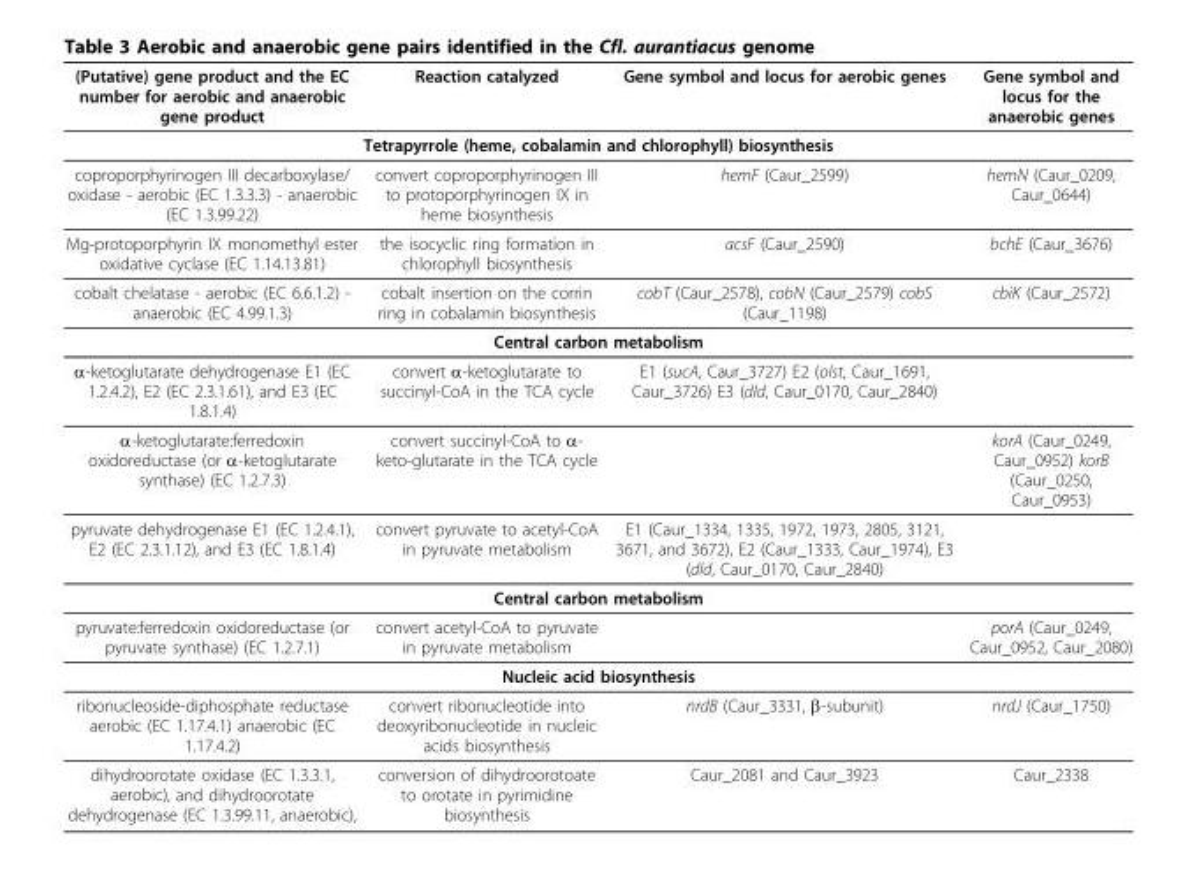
<table><thead><tr><td>(Putative) gene product and the EC number for aerobic and anaerobic gene product</td><td>Reaction catalyzed</td><td>Gene symbol and locus for aerobic genes</td><td>Gene symbol and locus for the anaerobic genes</td></tr></thead><tbody><tr><td colspan="4">Tetrapyrrole (heme, cobalamin and chlorophyll) biosynthesis</td></tr><tr><td>coproporphyrinogen III decarboxylase/ oxidase - aerobic (EC 1.3.3.3) - anaerobic (EC 1.3.99.22)</td><td>convert coproporphyrinogen III to protoporphyrinogen IX in heme biosynthesis</td><td>hemF (Caur_2599)</td><td>hemN (Caur_0209, Caur_0644)</td></tr><tr><td>Mg-protoporphyrin IX monomethyl ester oxidative cyclase (EC 1.14.13.81)</td><td>the isocyclic ring formation in chlorophyll biosynthesis</td><td>acsF (Caur_2590)</td><td>bchE (Caur_3676)</td></tr><tr><td>cobalt chelatase - aerobic (EC 6.6.1.2) - anaerobic (EC 4.99.1.3)</td><td>cobalt insertion on the corrin ring in cobalamin biosynthesis</td><td>cobT (Caur_2578), cobN (Caur_2579) cobS (Caur_1198)</td><td>cbiK (Caur_2572)</td></tr><tr><td colspan="4">Central carbon metabolism</td></tr><tr><td>α-ketoglutarate dehydrogenase E1 (EC 1.2.4.2), E2 (EC 2.3.1.61), and E3 (EC 1.8.1.4)</td><td>convert α-ketoglutarate to succinyl-CoA in the TCA cycle</td><td>E1 (sucA, Caur_3727) E2 (olst, Caur_1691, Caur_3726) E3 (dld, Caur_0170, Caur_2840)</td><td></td></tr><tr><td>α-ketoglutarate:ferredoxin oxidoreductase (or α-ketoglutarate synthase) (EC 1.2.7.3)</td><td>convert succinyl-CoA to α- keto-glutarate in the TCA cycle</td><td></td><td>korA (Caur_0249, Caur_0952) korB (Caur_0250, Caur_0953)</td></tr><tr><td>pyruvate dehydrogenase E1 (EC 1.2.4.1), E2 (EC 2.3.1.12), and E3 (EC 1.8.1.4)</td><td>convert pyruvate to acetyl-CoA in pyruvate metabolism</td><td>E1 (Caur_1334, 1335, 1972, 1973, 2805, 3121, 3671, and 3672), E2 (Caur_1333, Caur_1974), E3 (dld, Caur_0170, Caur_2840)</td><td></td></tr><tr><td colspan="4">Central carbon metabolism</td></tr><tr><td>pyruvate:ferredoxin oxidoreductase (or pyruvate synthase) (EC 1.2.7.1)</td><td>convert acetyl-CoA to pyruvate in pyruvate metabolism</td><td></td><td>porA (Caur_0249, Caur_0952, Caur_2080)</td></tr><tr><td colspan="4">Nucleic acid biosynthesis</td></tr><tr><td>ribonucleoside-diphosphate reductase aerobic (EC 1.17.4.1) anaerobic (EC 1.17.4.2)</td><td>convert ribonucleotide into deoxyribonucleotide in nucleic acids biosynthesis</td><td>nrdB (Caur_3331, β-subunit)</td><td>nrdJ (Caur_1750)</td></tr><tr><td>dihydroorotate oxidase (EC 1.3.3.1, aerobic), and dihydroorotate dehydrogenase (EC 1.3.99.11, anaerobic),</td><td>conversion of dihydroorotoate to orotate in pyrimidine biosynthesis</td><td>Caur_2081 and Caur_3923</td><td>Caur_2338</td></tr></tbody></table>